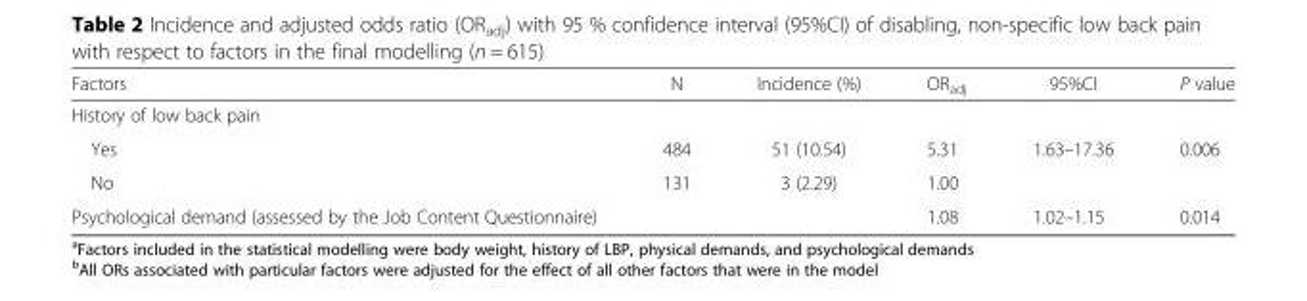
<table><thead><tr><td>Factors</td><td>N</td><td>Incidence (%)</td><td>OR<sub>adj</sub></td><td>95%CI</td><td>P value</td></tr></thead><tbody><tr><td colspan="6">History of low back pain</td></tr><tr><td>Yes</td><td>484</td><td>51 (10.54)</td><td>5.31</td><td>1.63–17.36</td><td>0.006</td></tr><tr><td>No</td><td>131</td><td>3 (2.29)</td><td>1.00</td><td></td><td></td></tr><tr><td>Psychological demand (assessed by the Job Content Questionnaire)</td><td></td><td></td><td>1.08</td><td>1.02–1.15</td><td>0.014</td></tr></tbody></table>